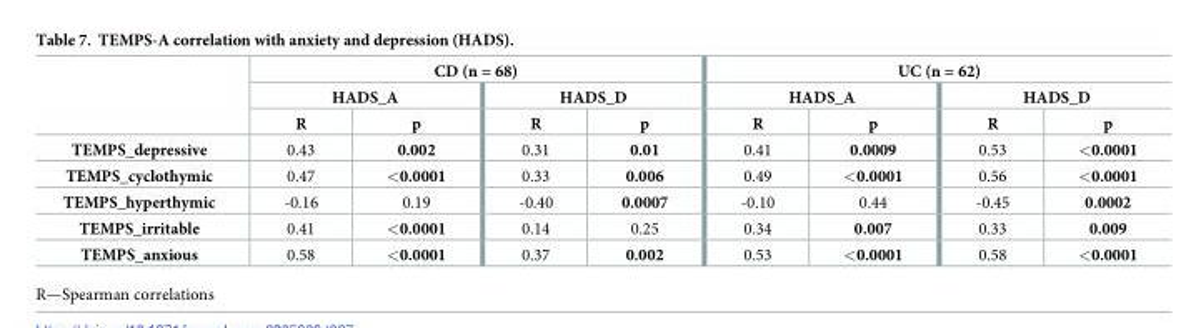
<table><thead><tr><td rowspan="3"></td><td colspan="4">CD (n = 68)</td><td colspan="4">UC (n = 62)</td></tr><tr><td colspan="2">HADS_A</td><td colspan="2">HADS_D</td><td colspan="2">HADS_A</td><td colspan="2">HADS_D</td></tr><tr><td>R</td><td>p</td><td>R</td><td>p</td><td>R</td><td>p</td><td>R</td><td>p</td></tr></thead><tbody><tr><td>TEMPS_depressive</td><td>0.43</td><td>0.002</td><td>0.31</td><td>0.01</td><td>0.41</td><td>0.0009</td><td>0.53</td><td>&lt;0.0001</td></tr><tr><td>TEMPS_cyclothymic</td><td>0.47</td><td>&lt;0.0001</td><td>0.33</td><td>0.006</td><td>0.49</td><td>&lt;0.0001</td><td>0.56</td><td>&lt;0.0001</td></tr><tr><td>TEMPS_hyperthymic</td><td>-0.16</td><td>0.19</td><td>-0.40</td><td>0.0007</td><td>-0.10</td><td>0.44</td><td>-0.45</td><td>0.0002</td></tr><tr><td>TEMPS_irritable</td><td>0.41</td><td>&lt;0.0001</td><td>0.14</td><td>0.25</td><td>0.34</td><td>0.007</td><td>0.33</td><td>0.009</td></tr><tr><td>TEMPS_anxious</td><td>0.58</td><td>&lt;0.0001</td><td>0.37</td><td>0.002</td><td>0.53</td><td>&lt;0.0001</td><td>0.58</td><td>&lt;0.0001</td></tr></tbody></table>